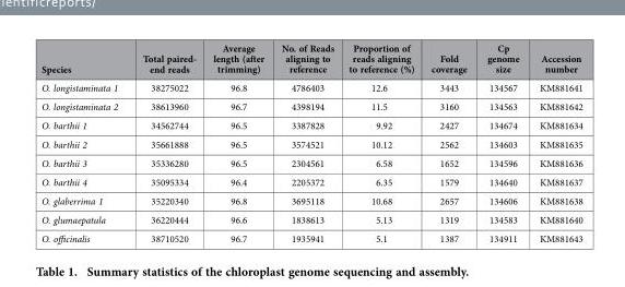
<table><thead><tr><td>Species</td><td>Total paired- end reads</td><td>Average length (after trimming)</td><td>No. of Reads aligning to reference</td><td>Proportion of reads aligning to reference (%)</td><td>Fold coverage</td><td>Cp genome size</td><td>Accession number</td></tr></thead><tbody><tr><td>O. longistaminata 1</td><td>38275022</td><td>96.8</td><td>4786403</td><td>12.6</td><td>3443</td><td>134567</td><td>KM881641</td></tr><tr><td>O. longistaminata 2</td><td>38613960</td><td>96.7</td><td>4398194</td><td>11.5</td><td>3160</td><td>134563</td><td>KM881642</td></tr><tr><td>O. barthii 1</td><td>34562744</td><td>96.5</td><td>3387828</td><td>9.92</td><td>2427</td><td>134674</td><td>KM881634</td></tr><tr><td>O. barthii 2</td><td>35661888</td><td>96.5</td><td>3574521</td><td>10.12</td><td>2562</td><td>134603</td><td>KM881635</td></tr><tr><td>O. barthii 3</td><td>35336280</td><td>96.5</td><td>2304561</td><td>6.58</td><td>1652</td><td>134596</td><td>KM881636</td></tr><tr><td>O. barthii 4</td><td>35095334</td><td>96.4</td><td>2205372</td><td>6.35</td><td>1579</td><td>134640</td><td>KM881637</td></tr><tr><td>O. glaberrima 1</td><td>35220340</td><td>96.8</td><td>3695118</td><td>10.68</td><td>2657</td><td>134606</td><td>KM881638</td></tr><tr><td>O. glumaepatula</td><td>36220444</td><td>96.6</td><td>1838613</td><td>5.13</td><td>1319</td><td>134583</td><td>KM881640</td></tr><tr><td>O. officinalis</td><td>38710520</td><td>96.7</td><td>1935941</td><td>5.1</td><td>1387</td><td>134911</td><td>KM881643</td></tr></tbody></table>